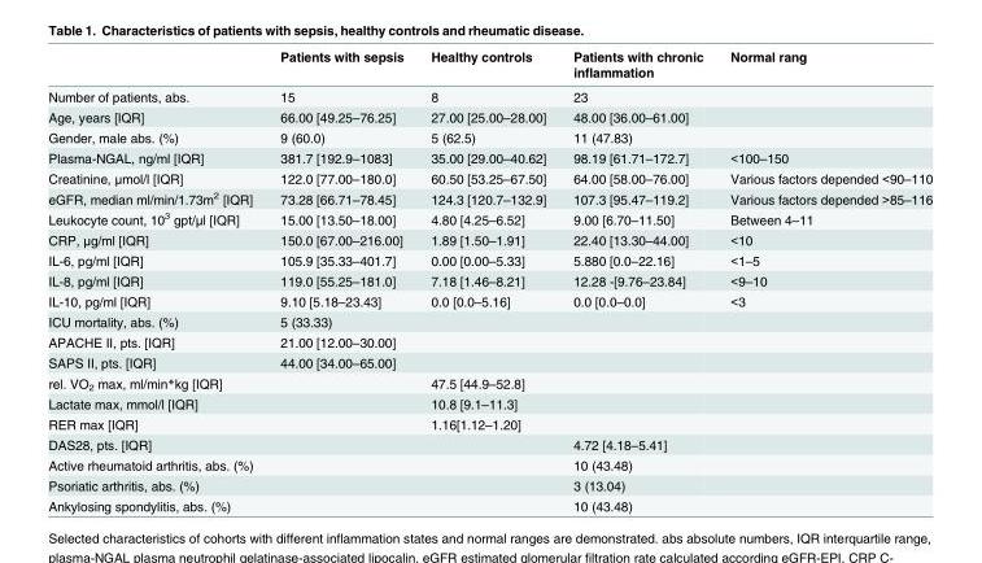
<table><thead><tr><td></td><td>Patients with sepsis</td><td>Healthy controls</td><td>Patients with chronic inflammation</td><td>Normal rang</td></tr></thead><tbody><tr><td>Number of patients, abs.</td><td>15</td><td>8</td><td>23</td><td></td></tr><tr><td>Age, years [IQR]</td><td>66.00 [49.25–76.25]</td><td>27.00 [25.00–28.00]</td><td>48.00 [36.00–61.00]</td><td></td></tr><tr><td>Gender, male abs. (%)</td><td>9 (60.0)</td><td>5 (62.5)</td><td>11 (47.83)</td><td></td></tr><tr><td>Plasma-NGAL, ng/ml [IQR]</td><td>381.7 [192.9–1083]</td><td>35.00 [29.00–40.62]</td><td>98.19 [61.71–172.7]</td><td>&lt;100–150</td></tr><tr><td>Creatinine, μmol/l [IQR]</td><td>122.0 [77.00–180.0]</td><td>60.50 [53.25–67.50]</td><td>64.00 [58.00–76.00]</td><td>Various factors depended &lt;90–110</td></tr><tr><td>eGFR, median ml/min/1.73m<sup>2</sup> [IQR]</td><td>73.28 [66.71–78.45]</td><td>124.3 [120.7–132.9]</td><td>107.3 [95.47–119.2]</td><td>Various factors depended &gt;85–116</td></tr><tr><td>Leukocyte count, 10<sup>3</sup> gpt/μl [IQR]</td><td>15.00 [13.50–18.00]</td><td>4.80 [4.25–6.52]</td><td>9.00 [6.70–11.50]</td><td>Between 4–11</td></tr><tr><td>CRP, μg/ml [IQR]</td><td>150.0 [67.00–216.00]</td><td>1.89 [1.50–1.91]</td><td>22.40 [13.30–44.00]</td><td>&lt;10</td></tr><tr><td>IL-6, pg/ml [IQR]</td><td>105.9 [35.33–401.7]</td><td>0.00 [0.00–5.33]</td><td>5.880 [0.0–22.16]</td><td>&lt;1–5</td></tr><tr><td>IL-8, pg/ml [IQR]</td><td>119.0 [55.25–181.0]</td><td>7.18 [1.46–8.21]</td><td>12.28 -[9.76–23.84]</td><td>&lt;9–10</td></tr><tr><td>IL-10, pg/ml [IQR]</td><td>9.10 [5.18–23.43]</td><td>0.0 [0.0–5.16]</td><td>0.0 [0.0–0.0]</td><td>&lt;3</td></tr><tr><td>ICU mortality, abs. (%)</td><td>5 (33.33)</td><td></td><td></td><td></td></tr><tr><td>APACHE II, pts. [IQR]</td><td>21.00 [12.00–30.00]</td><td></td><td></td><td></td></tr><tr><td>SAPS II, pts. [IQR]</td><td>44.00 [34.00–65.00]</td><td></td><td></td><td></td></tr><tr><td>rel. VO<sub>2</sub> max, ml/min*kg [IQR]</td><td></td><td>47.5 [44.9–52.8]</td><td></td><td></td></tr><tr><td>Lactate max, mmol/l [IQR]</td><td></td><td>10.8 [9.1–11.3]</td><td></td><td></td></tr><tr><td>RER max [IQR]</td><td></td><td>1.16[1.12–1.20]</td><td></td><td></td></tr><tr><td>DAS28, pts. [IQR]</td><td></td><td></td><td>4.72 [4.18–5.41]</td><td></td></tr><tr><td>Active rheumatoid arthritis, abs. (%)</td><td></td><td></td><td>10 (43.48)</td><td></td></tr><tr><td>Psoriatic arthritis, abs. (%)</td><td></td><td></td><td>3 (13.04)</td><td></td></tr><tr><td>Ankylosing spondylitis, abs. (%)</td><td></td><td></td><td>10 (43.48)</td><td></td></tr></tbody></table>